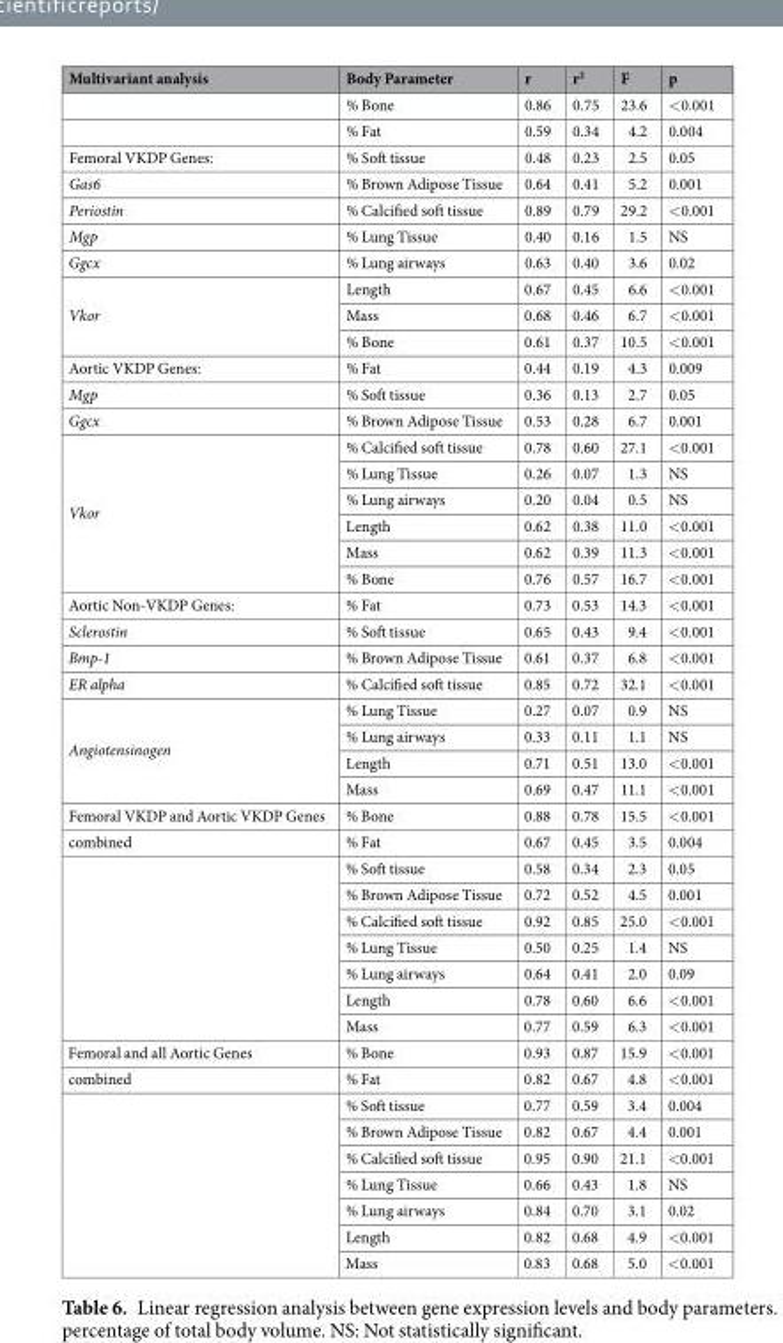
<table><thead><tr><td>Multivariant analysis</td><td>Body Parameter</td><td>r</td><td>r<sup>2</sup></td><td>F</td><td>p</td></tr></thead><tbody><tr><td></td><td>% Bone</td><td>0.86</td><td>0.75</td><td>23.6</td><td>&lt;0.001</td></tr><tr><td></td><td>% Fat</td><td>0.59</td><td>0.34</td><td>4.2</td><td>0.004</td></tr><tr><td>Femoral VKDP Genes:</td><td>% Soft tissue</td><td>0.48</td><td>0.23</td><td>2.5</td><td>0.05</td></tr><tr><td>Gas6</td><td>% Brown Adipose Tissue</td><td>0.64</td><td>0.41</td><td>5.2</td><td>0.001</td></tr><tr><td>Periostin</td><td>% Calcified soft tissue</td><td>0.89</td><td>0.79</td><td>29.2</td><td>&lt;0.001</td></tr><tr><td>Mgp</td><td>% Lung Tissue</td><td>0.40</td><td>0.16</td><td>1.5</td><td>NS</td></tr><tr><td>Ggcx</td><td>% Lung airways</td><td>0.63</td><td>0.40</td><td>3.6</td><td>0.02</td></tr><tr><td rowspan="3">Vkor</td><td>Length</td><td>0.67</td><td>0.45</td><td>6.6</td><td>&lt;0.001</td></tr><tr><td>Mass</td><td>0.68</td><td>0.46</td><td>6.7</td><td>&lt;0.001</td></tr><tr><td>% Bone</td><td>0.61</td><td>0.37</td><td>10.5</td><td>&lt;0.001</td></tr><tr><td>Aortic VKDP Genes:</td><td>% Fat</td><td>0.44</td><td>0.19</td><td>4.3</td><td>0.009</td></tr><tr><td>Mgp</td><td>% Soft tissue</td><td>0.36</td><td>0.13</td><td>2.7</td><td>0.05</td></tr><tr><td>Ggcx</td><td>% Brown Adipose Tissue</td><td>0.53</td><td>0.28</td><td>6.7</td><td>0.001</td></tr><tr><td rowspan="6">Vkor</td><td>% Calcified soft tissue</td><td>0.78</td><td>0.60</td><td>27.1</td><td>&lt;0.001</td></tr><tr><td>% Lung Tissue</td><td>0.26</td><td>0.07</td><td>1.3</td><td>NS</td></tr><tr><td>% Lung airways</td><td>0.20</td><td>0.04</td><td>0.5</td><td>NS</td></tr><tr><td>Length</td><td>0.62</td><td>0.38</td><td>11.0</td><td>&lt;0.001</td></tr><tr><td>Mass</td><td>0.62</td><td>0.39</td><td>11.3</td><td>&lt;0.001</td></tr><tr><td>% Bone</td><td>0.76</td><td>0.57</td><td>16.7</td><td>&lt;0.001</td></tr><tr><td>Aortic Non-VKDP Genes:</td><td>% Fat</td><td>0.73</td><td>0.53</td><td>14.3</td><td>&lt;0.001</td></tr><tr><td>Sclerostin</td><td>% Soft tissue</td><td>0.65</td><td>0.43</td><td>9.4</td><td>&lt;0.001</td></tr><tr><td>Bmp-1</td><td>% Brown Adipose Tissue</td><td>0.61</td><td>0.37</td><td>6.8</td><td>&lt;0.001</td></tr><tr><td>ER alpha</td><td>% Calcified soft tissue</td><td>0.85</td><td>0.72</td><td>32.1</td><td>&lt;0.001</td></tr><tr><td rowspan="4">Angiotensinogen</td><td>% Lung Tissue</td><td>0.27</td><td>0.07</td><td>0.9</td><td>NS</td></tr><tr><td>% Lung airways</td><td>0.33</td><td>0.11</td><td>1.1</td><td>NS</td></tr><tr><td>Length</td><td>0.71</td><td>0.51</td><td>13.0</td><td>&lt;0.001</td></tr><tr><td>Mass</td><td>0.69</td><td>0.47</td><td>11.1</td><td>&lt;0.001</td></tr><tr><td>Femoral VKDP and Aortic VKDP Genes</td><td>% Bone</td><td>0.88</td><td>0.78</td><td>15.5</td><td>&lt;0.001</td></tr><tr><td rowspan="8">combined</td><td>% Fat</td><td>0.67</td><td>0.45</td><td>3.5</td><td>0.004</td></tr><tr><td>% Soft tissue</td><td>0.58</td><td>0.34</td><td>2.3</td><td>0.05</td></tr><tr><td>% Brown Adipose Tissue</td><td>0.72</td><td>0.52</td><td>4.5</td><td>0.001</td></tr><tr><td>% Calcified soft tissue</td><td>0.92</td><td>0.85</td><td>25.0</td><td>&lt;0.001</td></tr><tr><td>% Lung Tissue</td><td>0.50</td><td>0.25</td><td>1.4</td><td>NS</td></tr><tr><td>% Lung airways</td><td>0.64</td><td>0.41</td><td>2.0</td><td>0.09</td></tr><tr><td>Length</td><td>0.78</td><td>0.60</td><td>6.6</td><td>&lt;0.001</td></tr><tr><td>Mass</td><td>0.77</td><td>0.59</td><td>6.3</td><td>&lt;0.001</td></tr><tr><td>Femoral and all Aortic Genes</td><td>% Bone</td><td>0.93</td><td>0.87</td><td>15.9</td><td>&lt;0.001</td></tr><tr><td rowspan="8">combined</td><td>% Fat</td><td>0.82</td><td>0.67</td><td>4.8</td><td>&lt;0.001</td></tr><tr><td>% Soft tissue</td><td>0.77</td><td>0.59</td><td>3.4</td><td>0.004</td></tr><tr><td>% Brown Adipose Tissue</td><td>0.82</td><td>0.67</td><td>4.4</td><td>0.001</td></tr><tr><td>% Calcified soft tissue</td><td>0.95</td><td>0.90</td><td>21.1</td><td>&lt;0.001</td></tr><tr><td>% Lung Tissue</td><td>0.66</td><td>0.43</td><td>1.8</td><td>NS</td></tr><tr><td>% Lung airways</td><td>0.84</td><td>0.70</td><td>3.1</td><td>0.02</td></tr><tr><td>Length</td><td>0.82</td><td>0.68</td><td>4.9</td><td>&lt;0.001</td></tr><tr><td>Mass</td><td>0.83</td><td>0.68</td><td>5.0</td><td>&lt;0.001</td></tr></tbody></table>